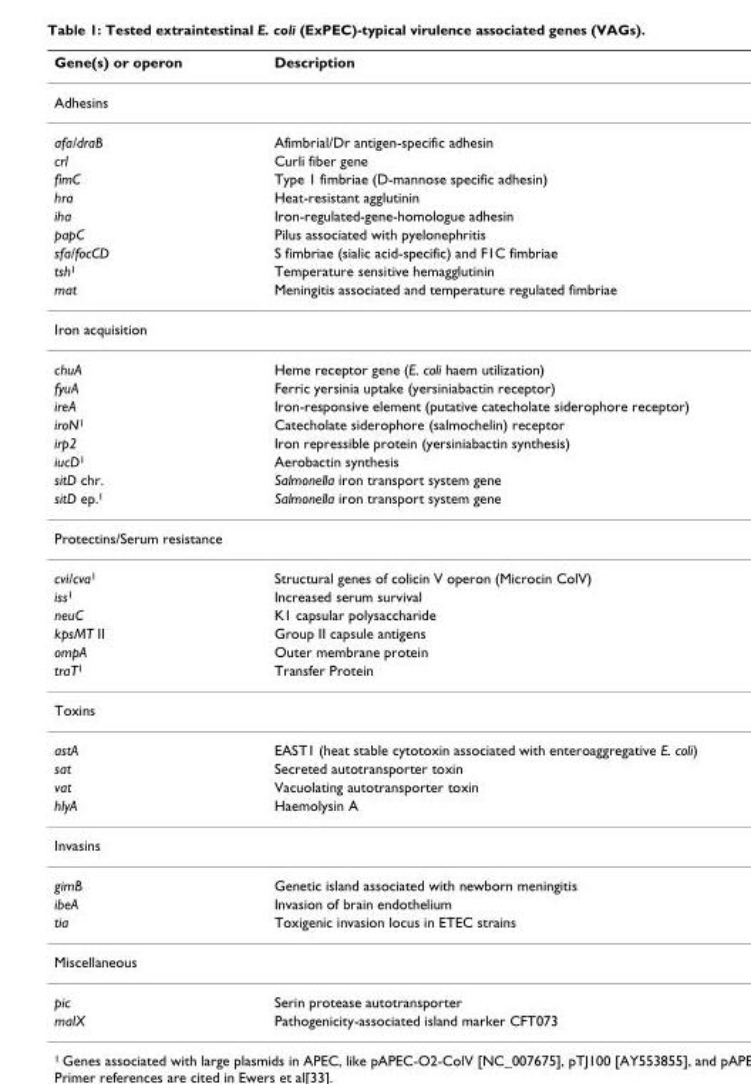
<table><thead><tr><td>Gene(s) or operon</td><td>Description</td></tr></thead><tbody><tr><td colspan="2">Adhesins</td></tr><tr><td>afa/draB</td><td>Afimbrial/Dr antigen-specific adhesin</td></tr><tr><td>crl</td><td>Curli fiber gene</td></tr><tr><td>fimC</td><td>Type 1 fimbriae (D-mannose specific adhesin)</td></tr><tr><td>hra</td><td>Heat-resistant agglutinin</td></tr><tr><td>iha</td><td>Iron-regulated-gene-homologue adhesin</td></tr><tr><td>papC</td><td>Pilus associated with pyelonephritis</td></tr><tr><td>sfa/focCD</td><td>S fimbriae (sialic acid-specific) and F1C fimbriae</td></tr><tr><td>tsh<sup>1</sup></td><td>Temperature sensitive hemagglutinin</td></tr><tr><td>mat</td><td>Meningitis associated and temperature regulated fimbriae</td></tr><tr><td colspan="2">Iron acquisition</td></tr><tr><td>chuA</td><td>Heme receptor gene (E. coli haem utilization)</td></tr><tr><td>fyuA</td><td>Ferric yersinia uptake (yersiniabactin receptor)</td></tr><tr><td>ireA</td><td>Iron-responsive element (putative catecholate siderophore receptor)</td></tr><tr><td>iroN<sup>1</sup></td><td>Catecholate siderophore (salmochelin) receptor</td></tr><tr><td>irp2</td><td>Iron repressible protein (yersiniabactin synthesis)</td></tr><tr><td>iucD<sup>1</sup></td><td>Aerobactin synthesis</td></tr><tr><td>sitD chr.</td><td>Salmonella iron transport system gene</td></tr><tr><td>sitD ep.<sup>1</sup></td><td>Salmonella iron transport system gene</td></tr><tr><td colspan="2">Protectins/Serum resistance</td></tr><tr><td>cvi/cva<sup>1</sup></td><td>Structural genes of colicin V operon (Microcin ColV)</td></tr><tr><td>iss<sup>1</sup></td><td>Increased serum survival</td></tr><tr><td>neuC</td><td>K1 capsular polysaccharide</td></tr><tr><td>kpsMT II</td><td>Group II capsule antigens</td></tr><tr><td>ompA</td><td>Outer membrane protein</td></tr><tr><td>traT<sup>1</sup></td><td>Transfer Protein</td></tr><tr><td colspan="2">Toxins</td></tr><tr><td>astA</td><td>EAST1 (heat stable cytotoxin associated with enteroaggregative E. coli)</td></tr><tr><td>sat</td><td>Secreted autotransporter toxin</td></tr><tr><td>vat</td><td>Vacuolating autotransporter toxin</td></tr><tr><td>hlyA</td><td>Haemolysin A</td></tr><tr><td colspan="2">Invasins</td></tr><tr><td>gimB</td><td>Genetic island associated with newborn meningitis</td></tr><tr><td>ibeA</td><td>Invasion of brain endothelium</td></tr><tr><td>tia</td><td>Toxigenic invasion locus in ETEC strains</td></tr><tr><td colspan="2">Miscellaneous</td></tr><tr><td>pic</td><td>Serin protease autotransporter</td></tr><tr><td>malX</td><td>Pathogenicity-associated island marker CFT073</td></tr></tbody></table>